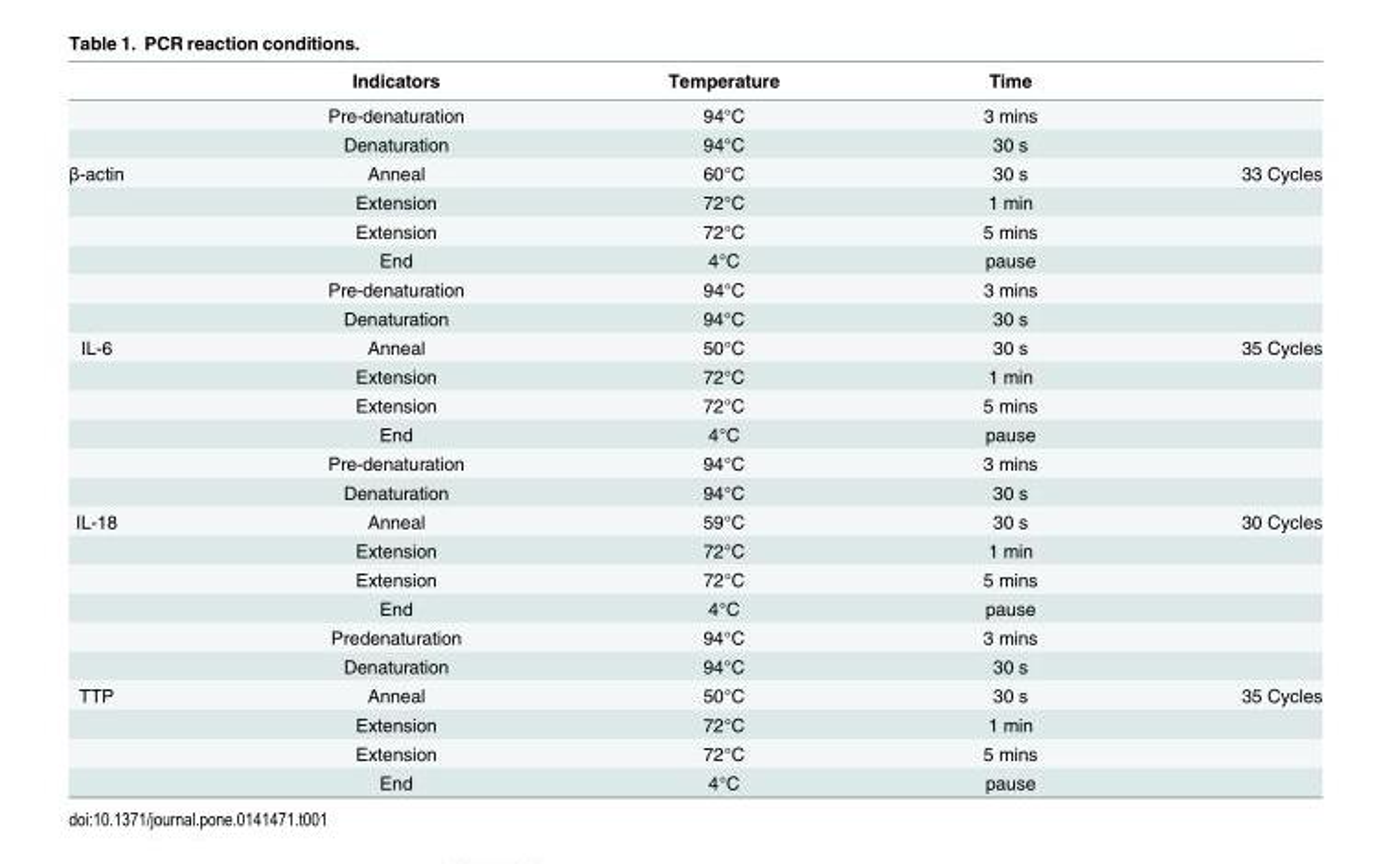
<table><thead><tr><td></td><td>Indicators</td><td>Temperature</td><td>Time</td><td></td></tr></thead><tbody><tr><td></td><td>Pre-denaturation</td><td>94°C</td><td>3 mins</td><td></td></tr><tr><td></td><td>Denaturation</td><td>94°C</td><td>30 s</td><td></td></tr><tr><td rowspan="6">β-actin</td><td>Anneal</td><td>60°C</td><td>30 s</td><td>33 Cycles</td></tr><tr><td>Extension</td><td>72°C</td><td>1 min</td><td></td></tr><tr><td>Extension</td><td>72°C</td><td>5 mins</td><td></td></tr><tr><td>End</td><td>4°C</td><td>pause</td><td></td></tr><tr><td>Pre-denaturation</td><td>94°C</td><td>3 mins</td><td></td></tr><tr><td>Denaturation</td><td>94°C</td><td>30 s</td><td></td></tr><tr><td rowspan="6">IL-6</td><td>Anneal</td><td>50°C</td><td>30 s</td><td>35 Cycles</td></tr><tr><td>Extension</td><td>72°C</td><td>1 min</td><td></td></tr><tr><td>Extension</td><td>72°C</td><td>5 mins</td><td></td></tr><tr><td>End</td><td>4°C</td><td>pause</td><td></td></tr><tr><td>Pre-denaturation</td><td>94°C</td><td>3 mins</td><td></td></tr><tr><td>Denaturation</td><td>94°C</td><td>30 s</td><td></td></tr><tr><td rowspan="6">IL-18</td><td>Anneal</td><td>59°C</td><td>30 s</td><td>30 Cycles</td></tr><tr><td>Extension</td><td>72°C</td><td>1 min</td><td></td></tr><tr><td>Extension</td><td>72°C</td><td>5 mins</td><td></td></tr><tr><td>End</td><td>4°C</td><td>pause</td><td></td></tr><tr><td>Predenaturation</td><td>94°C</td><td>3 mins</td><td></td></tr><tr><td>Denaturation</td><td>94°C</td><td>30 s</td><td></td></tr><tr><td rowspan="4">TTP</td><td>Anneal</td><td>50°C</td><td>30 s</td><td>35 Cycles</td></tr><tr><td>Extension</td><td>72°C</td><td>1 min</td><td></td></tr><tr><td>Extension</td><td>72°C</td><td>5 mins</td><td></td></tr><tr><td>End</td><td>4°C</td><td>pause</td><td></td></tr></tbody></table>